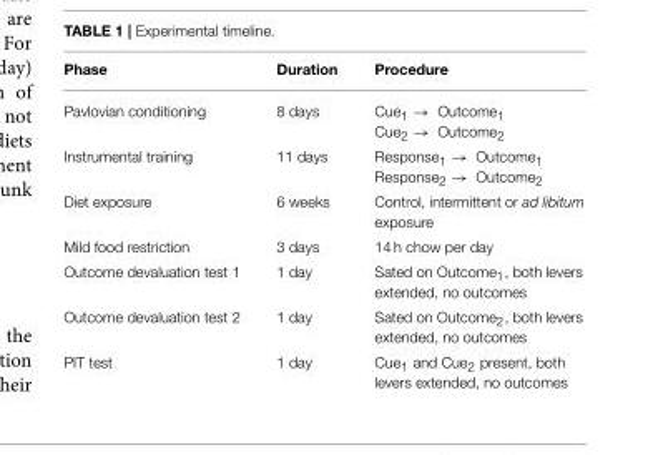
<table><thead><tr><td>Phase</td><td>Duration</td><td>Procedure</td></tr></thead><tbody><tr><td>Pavlovian conditioning</td><td>8 days</td><td>Cue<sub>1</sub> → Outcome<sub>1</sub> Cue<sub>2</sub> → Outcome<sub>2</sub></td></tr><tr><td>Instrumental training</td><td>11 days</td><td>Response<sub>1</sub> → Outcome<sub>1</sub> Response<sub>2</sub> → Outcome<sub>2</sub></td></tr><tr><td>Diet exposure</td><td>6 weeks</td><td>Control, intermittent or ad libitum exposure</td></tr><tr><td>Mild food restriction</td><td>3 days</td><td>14 h chow per day</td></tr><tr><td>Outcome devaluation test 1</td><td>1 day</td><td>Sated on Outcome<sub>1</sub>, both levers extended, no outcomes</td></tr><tr><td>Outcome devaluation test 2</td><td>1 day</td><td>Sated on Outcome<sub>2</sub>, both levers extended, no outcomes</td></tr><tr><td>PIT test</td><td>1 day</td><td>Cue<sub>1</sub> and Cue<sub>2</sub> present, both levers extended, no outcomes</td></tr></tbody></table>